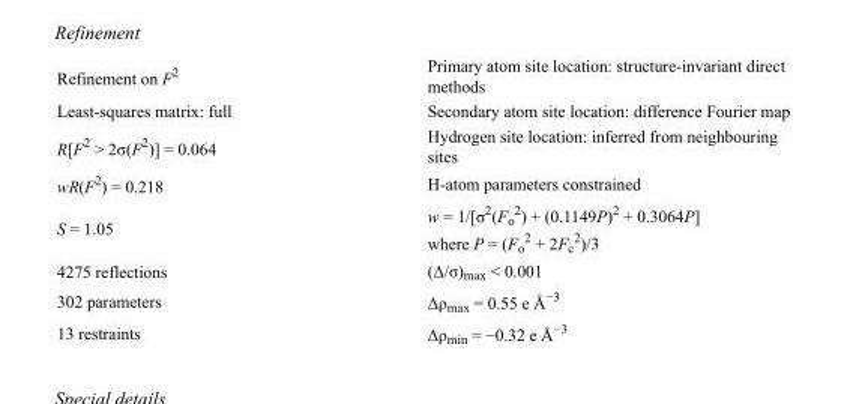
<table><tbody><tr><td>Refinement on F<sup>2</sup></td><td>Primary atom site location: structure-invariant direct methods</td></tr><tr><td>Least-squares matrix: full</td><td>Secondary atom site location: difference Fourier map</td></tr><tr><td>R[F<sup>2</sup> &gt; 2σ(F<sup>2</sup>)] = 0.064</td><td>Hydrogen site location: inferred from neighbouring sites</td></tr><tr><td>wR(F<sup>2</sup>) = 0.218</td><td>H-atom parameters constrained</td></tr><tr><td>S = 1.05</td><td>w = 1/[σ<sup>2</sup>(F<sub>o</sub> <sup>2</sup>) + (0.1149P)<sup>2</sup> + 0.3064P] where P = (F<sub>o</sub> <sup>2</sup> + 2F<sub>c</sub> <sup>2</sup>)/3</td></tr><tr><td>4275 reflections</td><td>(Δ/σ)<sub>max</sub> &lt; 0.001</td></tr><tr><td>302 parameters</td><td>Δρ<sub>max</sub> = 0.55 e Å<sup>−3</sup></td></tr><tr><td>13 restraints</td><td>Δρ<sub>min</sub> = −0.32 e Å<sup>−3</sup></td></tr></tbody></table>